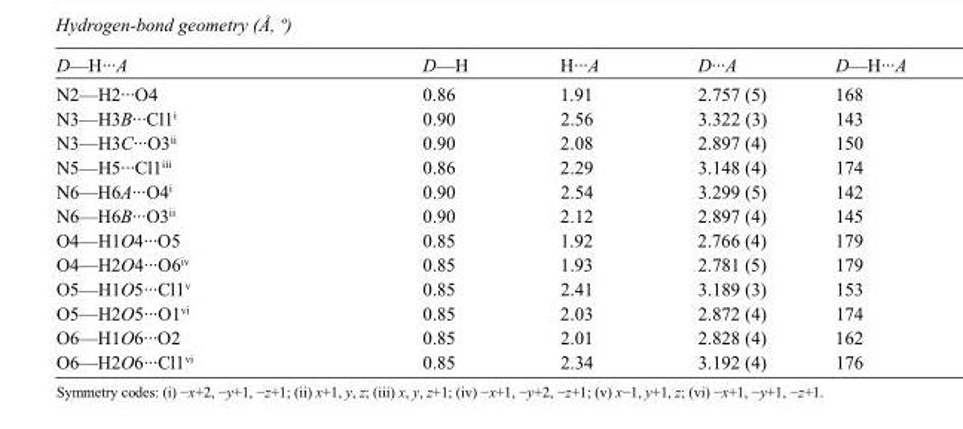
<table><tbody><tr><td>D—H···A</td><td>D—H</td><td>H···A</td><td>D···A</td><td>D—H···A</td></tr><tr><td>N2—H2···O4</td><td>0.86</td><td>1.91</td><td>2.757 (5)</td><td>168</td></tr><tr><td>N3—H3B···Cl1<sup>i</sup></td><td>0.90</td><td>2.56</td><td>3.322 (3)</td><td>143</td></tr><tr><td>N3—H3C···O3<sup>ii</sup></td><td>0.90</td><td>2.08</td><td>2.897 (4)</td><td>150</td></tr><tr><td>N5—H5···Cl1<sup>iii</sup></td><td>0.86</td><td>2.29</td><td>3.148 (4)</td><td>174</td></tr><tr><td>N6—H6A···O4<sup>i</sup></td><td>0.90</td><td>2.54</td><td>3.299 (5)</td><td>142</td></tr><tr><td>N6—H6B···O3<sup>ii</sup></td><td>0.90</td><td>2.12</td><td>2.897 (4)</td><td>145</td></tr><tr><td>O4—H1O4···O5</td><td>0.85</td><td>1.92</td><td>2.766 (4)</td><td>179</td></tr><tr><td>O4—H2O4···O6<sup>iv</sup></td><td>0.85</td><td>1.93</td><td>2.781 (5)</td><td>179</td></tr><tr><td>O5—H1O5···Cl1<sup>v</sup></td><td>0.85</td><td>2.41</td><td>3.189 (3)</td><td>153</td></tr><tr><td>O5—H2O5···O1<sup>vi</sup></td><td>0.85</td><td>2.03</td><td>2.872 (4)</td><td>174</td></tr><tr><td>O6—H1O6···O2</td><td>0.85</td><td>2.01</td><td>2.828 (4)</td><td>162</td></tr><tr><td>O6—H2O6···Cl1<sup>vi</sup></td><td>0.85</td><td>2.34</td><td>3.192 (4)</td><td>176</td></tr></tbody></table>